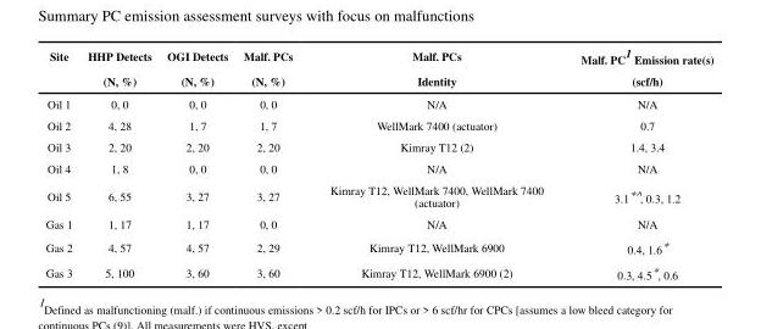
<table><thead><tr><td rowspan="2">Site</td><td rowspan="2">HHP Detects (N, %)</td><td rowspan="2">OGI Detects (N, %)</td><td rowspan="2">Malf. PCs (N, %)</td><td rowspan="2">Malf. PCs Identity</td><td rowspan="2">Malf. PC<sup>1</sup> Emission rate(s) (scf/h)</td></tr><tr></tr></thead><tbody><tr><td>Oil 1</td><td>0, 0</td><td>0, 0</td><td>0, 0</td><td>N/A</td><td>N/A</td></tr><tr><td>Oil 2</td><td>4, 28</td><td>1, 7</td><td>1, 7</td><td>WellMark 7400 (actuator)</td><td>0.7</td></tr><tr><td>Oil 3</td><td>2, 20</td><td>2, 20</td><td>2, 20</td><td>Kimray T12 (2)</td><td>1.4, 3.4</td></tr><tr><td>Oil 4</td><td>1, 8</td><td>0, 0</td><td>0, 0</td><td>N/A</td><td>N/A</td></tr><tr><td>Oil 5</td><td>6, 55</td><td>3, 27</td><td>3, 27</td><td>Kimray T12, WellMark 7400, WellMark 7400 (actuator)</td><td>3.1*^, 0.3, 1.2</td></tr><tr><td>Gas 1</td><td>1, 17</td><td>1, 17</td><td>0, 0</td><td>N/A</td><td>N/A</td></tr><tr><td>Gas 2</td><td>4, 57</td><td>4, 57</td><td>2, 29</td><td>Kimray T12, WellMark 6900</td><td>0.4, 1.6*</td></tr><tr><td>Gas 3</td><td>5, 100</td><td>3, 60</td><td>3, 60</td><td>Kimray T12, WellMark 6900 (2)</td><td>0.3, 4.5*, 0.6</td></tr></tbody></table>